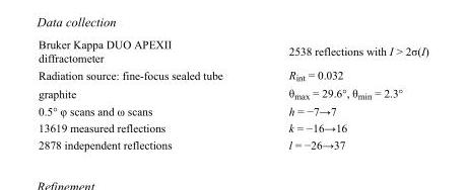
<table><tbody><tr><td>Bruker Kappa DUO APEXII diffractometer</td><td>2538 reflections with I &gt; 2σ(I)</td></tr><tr><td>Radiation source: fine-focus sealed tube</td><td>R<sub>int</sub> = 0.032</td></tr><tr><td>graphite</td><td>θ<sub>max</sub> = 29.6°, θ<sub>min</sub> = 2.3°</td></tr><tr><td>0.5° φ scans and ω scans</td><td>h = −7→7</td></tr><tr><td>13619 measured reflections</td><td>k = −16→16</td></tr><tr><td>2878 independent reflections</td><td>l = −26→37</td></tr></tbody></table>